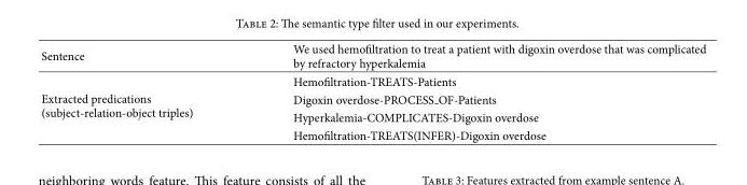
<table><tbody><tr><td>Sentence</td><td>We used hemofiltration to treat a patient with digoxin overdose that was complicated by refractory hyperkalemia</td></tr><tr><td rowspan="4">Extracted predications (subject-relation-object triples)</td><td>Hemofiltration-TREATS-Patients</td></tr><tr><td>Digoxin overdose-PROCESS OF-Patients</td></tr><tr><td>Hyperkalemia-COMPLICATES-Digoxin overdose</td></tr><tr><td>Hemofiltration-TREATS(INFER)-Digoxin overdose</td></tr></tbody></table>